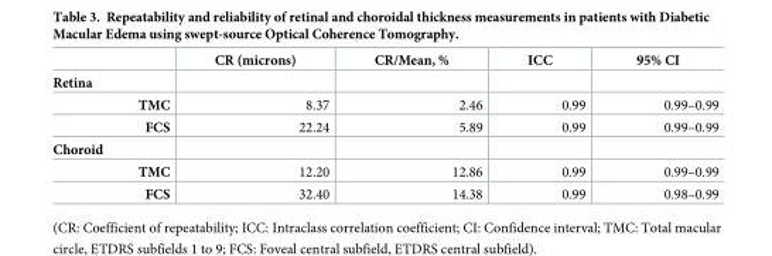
<table><thead><tr><td></td><td>CR (microns)</td><td>CR/Mean, %</td><td>ICC</td><td>95% CI</td></tr></thead><tbody><tr><td colspan="5">Retina</td></tr><tr><td>TMC</td><td>8.37</td><td>2.46</td><td>0.99</td><td>0.99–0.99</td></tr><tr><td>FCS</td><td>22.24</td><td>5.89</td><td>0.99</td><td>0.99–0.99</td></tr><tr><td colspan="5">Choroid</td></tr><tr><td>TMC</td><td>12.20</td><td>12.86</td><td>0.99</td><td>0.99–0.99</td></tr><tr><td>FCS</td><td>32.40</td><td>14.38</td><td>0.99</td><td>0.98–0.99</td></tr></tbody></table>